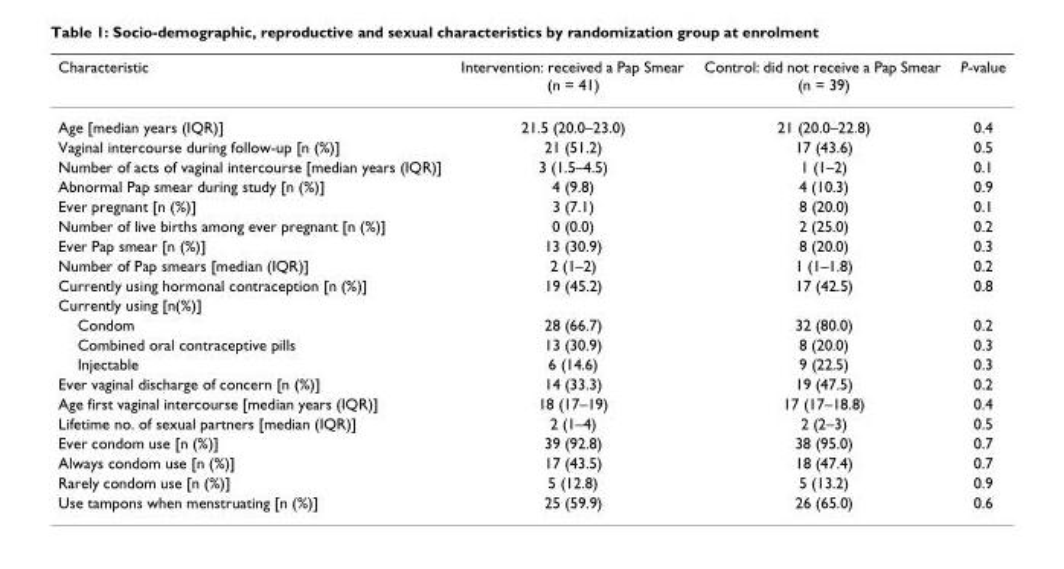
<table><thead><tr><td>Characteristic</td><td>Intervention: received a Pap Smear (n = 41)</td><td>Control: did not receive a Pap Smear (n = 39)</td><td>P-value</td></tr></thead><tbody><tr><td>Age [median years (IQR)]</td><td>21.5 (20.0–23.0)</td><td>21 (20.0–22.8)</td><td>0.4</td></tr><tr><td>Vaginal intercourse during follow-up [n (%)]</td><td>21 (51.2)</td><td>17 (43.6)</td><td>0.5</td></tr><tr><td>Number of acts of vaginal intercourse [median years (IQR)]</td><td>3 (1.5–4.5)</td><td>1 (1–2)</td><td>0.1</td></tr><tr><td>Abnormal Pap smear during study [n (%)]</td><td>4 (9.8)</td><td>4 (10.3)</td><td>0.9</td></tr><tr><td>Ever pregnant [n (%)]</td><td>3 (7.1)</td><td>8 (20.0)</td><td>0.1</td></tr><tr><td>Number of live births among ever pregnant [n (%)]</td><td>0 (0.0)</td><td>2 (25.0)</td><td>0.2</td></tr><tr><td>Ever Pap smear [n (%)]</td><td>13 (30.9)</td><td>8 (20.0)</td><td>0.3</td></tr><tr><td>Number of Pap smears [median (IQR)]</td><td>2 (1–2)</td><td>1 (1–1.8)</td><td>0.2</td></tr><tr><td>Currently using hormonal contraception [n (%)]</td><td>19 (45.2)</td><td>17 (42.5)</td><td>0.8</td></tr><tr><td colspan="4">Currently using [n(%)]</td></tr><tr><td>Condom</td><td>28 (66.7)</td><td>32 (80.0)</td><td>0.2</td></tr><tr><td>Combined oral contraceptive pills</td><td>13 (30.9)</td><td>8 (20.0)</td><td>0.3</td></tr><tr><td>Injectable</td><td>6 (14.6)</td><td>9 (22.5)</td><td>0.3</td></tr><tr><td>Ever vaginal discharge of concern [n (%)]</td><td>14 (33.3)</td><td>19 (47.5)</td><td>0.2</td></tr><tr><td>Age first vaginal intercourse [median years (IQR)]</td><td>18 (17–19)</td><td>17 (17–18.8)</td><td>0.4</td></tr><tr><td>Lifetime no. of sexual partners [median (IQR)]</td><td>2 (1–4)</td><td>2 (2–3)</td><td>0.5</td></tr><tr><td>Ever condom use [n (%)]</td><td>39 (92.8)</td><td>38 (95.0)</td><td>0.7</td></tr><tr><td>Always condom use [n (%)]</td><td>17 (43.5)</td><td>18 (47.4)</td><td>0.7</td></tr><tr><td>Rarely condom use [n (%)]</td><td>5 (12.8)</td><td>5 (13.2)</td><td>0.9</td></tr><tr><td>Use tampons when menstruating [n (%)]</td><td>25 (59.9)</td><td>26 (65.0)</td><td>0.6</td></tr></tbody></table>